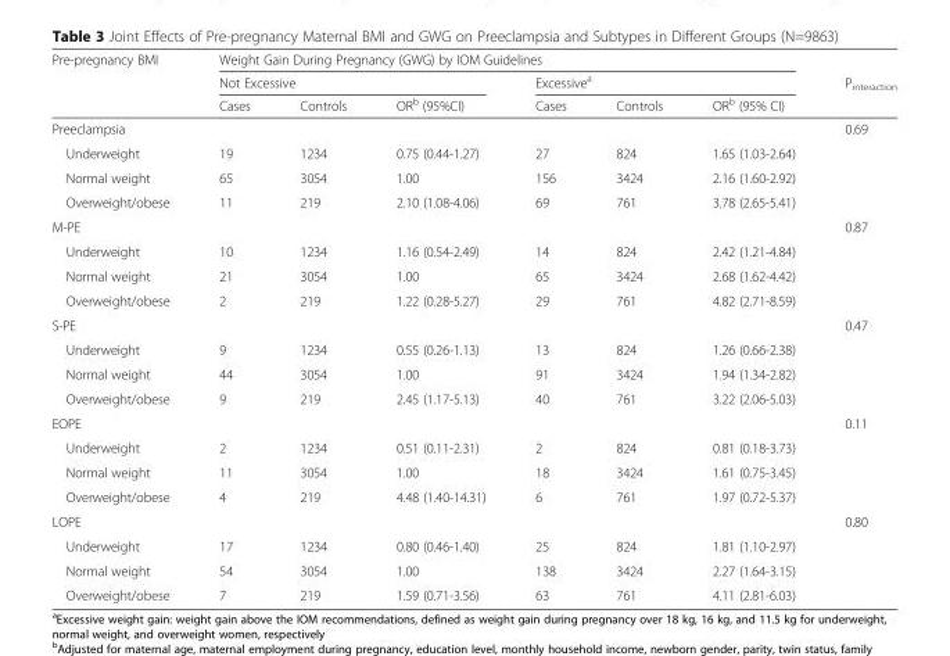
<table><thead><tr><td rowspan="3">Pre-pregnancy BMI</td><td colspan="6">Weight Gain During Pregnancy (GWG) by IOM Guidelines</td><td rowspan="3">P<sub>interaction</sub></td></tr><tr><td colspan="3">Not Excessive</td><td colspan="3">Excessive<sup>a</sup></td></tr><tr><td>Cases</td><td>Controls</td><td>OR<sup>b</sup> (95%CI)</td><td>Cases</td><td>Controls</td><td>OR<sup>b</sup> (95% CI)</td></tr></thead><tbody><tr><td colspan="7">Preeclampsia</td><td>0.69</td></tr><tr><td>Underweight</td><td>19</td><td>1234</td><td>0.75 (0.44-1.27)</td><td>27</td><td>824</td><td>1.65 (1.03-2.64)</td><td></td></tr><tr><td>Normal weight</td><td>65</td><td>3054</td><td>1.00</td><td>156</td><td>3424</td><td>2.16 (1.60-2.92)</td><td></td></tr><tr><td>Overweight/obese</td><td>11</td><td>219</td><td>2.10 (1.08-4.06)</td><td>69</td><td>761</td><td>3.78 (2.65-5.41)</td><td></td></tr><tr><td colspan="7">M-PE</td><td>0.87</td></tr><tr><td>Underweight</td><td>10</td><td>1234</td><td>1.16 (0.54-2.49)</td><td>14</td><td>824</td><td>2.42 (1.21-4.84)</td><td></td></tr><tr><td>Normal weight</td><td>21</td><td>3054</td><td>1.00</td><td>65</td><td>3424</td><td>2.68 (1.62-4.42)</td><td></td></tr><tr><td>Overweight/obese</td><td>2</td><td>219</td><td>1.22 (0.28-5.27)</td><td>29</td><td>761</td><td>4.82 (2.71-8.59)</td><td></td></tr><tr><td colspan="7">S-PE</td><td>0.47</td></tr><tr><td>Underweight</td><td>9</td><td>1234</td><td>0.55 (0.26-1.13)</td><td>13</td><td>824</td><td>1.26 (0.66-2.38)</td><td></td></tr><tr><td>Normal weight</td><td>44</td><td>3054</td><td>1.00</td><td>91</td><td>3424</td><td>1.94 (1.34-2.82)</td><td></td></tr><tr><td>Overweight/obese</td><td>9</td><td>219</td><td>2.45 (1.17-5.13)</td><td>40</td><td>761</td><td>3.22 (2.06-5.03)</td><td></td></tr><tr><td colspan="7">EOPE</td><td>0.11</td></tr><tr><td>Underweight</td><td>2</td><td>1234</td><td>0.51 (0.11-2.31)</td><td>2</td><td>824</td><td>0.81 (0.18-3.73)</td><td></td></tr><tr><td>Normal weight</td><td>11</td><td>3054</td><td>1.00</td><td>18</td><td>3424</td><td>1.61 (0.75-3.45)</td><td></td></tr><tr><td>Overweight/obese</td><td>4</td><td>219</td><td>4.48 (1.40-14.31)</td><td>6</td><td>761</td><td>1.97 (0.72-5.37)</td><td></td></tr><tr><td colspan="7">LOPE</td><td>0.80</td></tr><tr><td>Underweight</td><td>17</td><td>1234</td><td>0.80 (0.46-1.40)</td><td>25</td><td>824</td><td>1.81 (1.10-2.97)</td><td></td></tr><tr><td>Normal weight</td><td>54</td><td>3054</td><td>1.00</td><td>138</td><td>3424</td><td>2.27 (1.64-3.15)</td><td></td></tr><tr><td>Overweight/obese</td><td>7</td><td>219</td><td>1.59 (0.71-3.56)</td><td>63</td><td>761</td><td>4.11 (2.81-6.03)</td><td></td></tr></tbody></table>